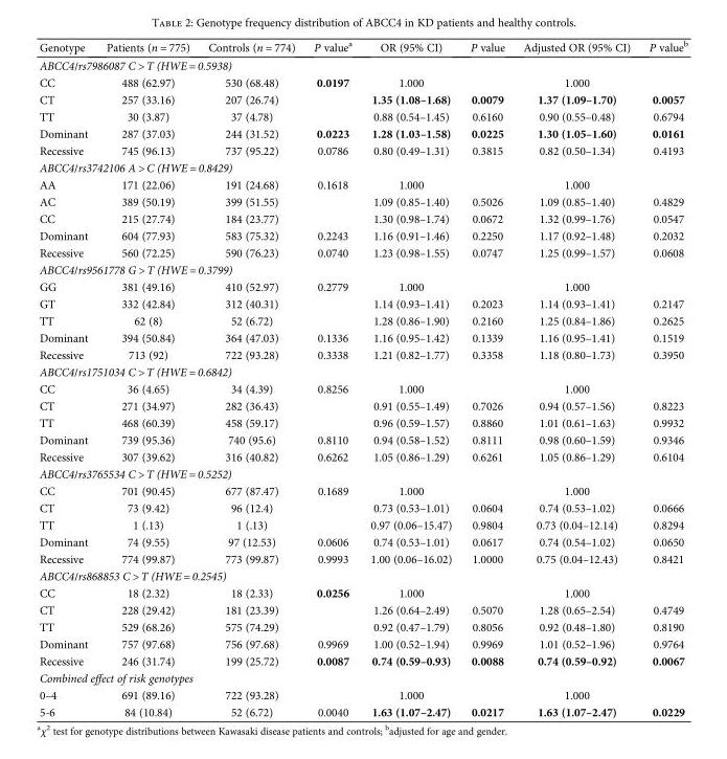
<table><thead><tr><td>Genotype</td><td>Patients (n = 775)</td><td>Controls (n = 774)</td><td>P value<sup>a</sup></td><td>OR (95% CI)</td><td>P value</td><td>Adjusted OR (95% CI)</td><td>P value<sup>b</sup></td></tr></thead><tbody><tr><td colspan="8">ABCC4/rs7986087 C &gt; T (HWE = 0.5938)</td></tr><tr><td>CC</td><td>488 (62.97)</td><td>530 (68.48)</td><td>0.0197</td><td>1.000</td><td></td><td>1.000</td><td></td></tr><tr><td>CT</td><td>257 (33.16)</td><td>207 (26.74)</td><td></td><td>1.35 (1.08–1.68)</td><td>0.0079</td><td>1.37 (1.09–1.70)</td><td>0.0057</td></tr><tr><td>TT</td><td>30 (3.87)</td><td>37 (4.78)</td><td></td><td>0.88 (0.54–1.45)</td><td>0.6160</td><td>0.90 (0.55–0.48)</td><td>0.6794</td></tr><tr><td>Dominant</td><td>287 (37.03)</td><td>244 (31.52)</td><td>0.0223</td><td>1.28 (1.03–1.58)</td><td>0.0225</td><td>1.30 (1.05–1.60)</td><td>0.0161</td></tr><tr><td>Recessive</td><td>745 (96.13)</td><td>737 (95.22)</td><td>0.0786</td><td>0.80 (0.49–1.31)</td><td>0.3815</td><td>0.82 (0.50–1.34)</td><td>0.4193</td></tr><tr><td colspan="8">ABCC4/rs3742106 A &gt; C (HWE = 0.8429)</td></tr><tr><td>AA</td><td>171 (22.06)</td><td>191 (24.68)</td><td>0.1618</td><td>1.000</td><td></td><td>1.000</td><td></td></tr><tr><td>AC</td><td>389 (50.19)</td><td>399 (51.55)</td><td></td><td>1.09 (0.85–1.40)</td><td>0.5026</td><td>1.09 (0.85–1.40)</td><td>0.4829</td></tr><tr><td>CC</td><td>215 (27.74)</td><td>184 (23.77)</td><td></td><td>1.30 (0.98–1.74)</td><td>0.0672</td><td>1.32 (0.99–1.76)</td><td>0.0547</td></tr><tr><td>Dominant</td><td>604 (77.93)</td><td>583 (75.32)</td><td>0.2243</td><td>1.16 (0.91–1.46)</td><td>0.2250</td><td>1.17 (0.92–1.48)</td><td>0.2032</td></tr><tr><td>Recessive</td><td>560 (72.25)</td><td>590 (76.23)</td><td>0.0740</td><td>1.23 (0.98–1.55)</td><td>0.0747</td><td>1.25 (0.99–1.57)</td><td>0.0608</td></tr><tr><td colspan="8">ABCC4/rs9561778 G &gt; T (HWE = 0.3799)</td></tr><tr><td>GG</td><td>381 (49.16)</td><td>410 (52.97)</td><td>0.2779</td><td>1.000</td><td></td><td>1.000</td><td></td></tr><tr><td>GT</td><td>332 (42.84)</td><td>312 (40.31)</td><td></td><td>1.14 (0.93–1.41)</td><td>0.2023</td><td>1.14 (0.93–1.41)</td><td>0.2147</td></tr><tr><td>TT</td><td>62 (8)</td><td>52 (6.72)</td><td></td><td>1.28 (0.86–1.90)</td><td>0.2160</td><td>1.25 (0.84–1.86)</td><td>0.2625</td></tr><tr><td>Dominant</td><td>394 (50.84)</td><td>364 (47.03)</td><td>0.1336</td><td>1.16 (0.95–1.42)</td><td>0.1339</td><td>1.16 (0.95–1.41)</td><td>0.1519</td></tr><tr><td>Recessive</td><td>713 (92)</td><td>722 (93.28)</td><td>0.3338</td><td>1.21 (0.82–1.77)</td><td>0.3358</td><td>1.18 (0.80–1.73)</td><td>0.3950</td></tr><tr><td colspan="8">ABCC4/rs1751034 C &gt; T (HWE = 0.6842)</td></tr><tr><td>CC</td><td>36 (4.65)</td><td>34 (4.39)</td><td>0.8256</td><td>1.000</td><td></td><td>1.000</td><td></td></tr><tr><td>CT</td><td>271 (34.97)</td><td>282 (36.43)</td><td></td><td>0.91 (0.55–1.49)</td><td>0.7026</td><td>0.94 (0.57–1.56)</td><td>0.8223</td></tr><tr><td>TT</td><td>468 (60.39)</td><td>458 (59.17)</td><td></td><td>0.96 (0.59–1.57)</td><td>0.8860</td><td>1.01 (0.61–1.63)</td><td>0.9932</td></tr><tr><td>Dominant</td><td>739 (95.36)</td><td>740 (95.6)</td><td>0.8110</td><td>0.94 (0.58–1.52)</td><td>0.8111</td><td>0.98 (0.60–1.59)</td><td>0.9346</td></tr><tr><td>Recessive</td><td>307 (39.62)</td><td>316 (40.82)</td><td>0.6262</td><td>1.05 (0.86–1.29)</td><td>0.6261</td><td>1.05 (0.86–1.29)</td><td>0.6104</td></tr><tr><td colspan="8">ABCC4/rs3765534 C &gt; T (HWE = 0.5252)</td></tr><tr><td>CC</td><td>701 (90.45)</td><td>677 (87.47)</td><td>0.1689</td><td>1.000</td><td></td><td>1.000</td><td></td></tr><tr><td>CT</td><td>73 (9.42)</td><td>96 (12.4)</td><td></td><td>0.73 (0.53–1.01)</td><td>0.0604</td><td>0.74 (0.53–1.02)</td><td>0.0666</td></tr><tr><td>TT</td><td>1 (.13)</td><td>1 (.13)</td><td></td><td>0.97 (0.06–15.47)</td><td>0.9804</td><td>0.73 (0.04–12.14)</td><td>0.8294</td></tr><tr><td>Dominant</td><td>74 (9.55)</td><td>97 (12.53)</td><td>0.0606</td><td>0.74 (0.53–1.01)</td><td>0.0617</td><td>0.74 (0.54–1.02)</td><td>0.0650</td></tr><tr><td>Recessive</td><td>774 (99.87)</td><td>773 (99.87)</td><td>0.9993</td><td>1.00 (0.06–16.02)</td><td>1.0000</td><td>0.75 (0.04–12.43)</td><td>0.8421</td></tr><tr><td colspan="8">ABCC4/rs868853 C &gt; T (HWE = 0.2545)</td></tr><tr><td>CC</td><td>18 (2.32)</td><td>18 (2.33)</td><td>0.0256</td><td>1.000</td><td></td><td>1.000</td><td></td></tr><tr><td>CT</td><td>228 (29.42)</td><td>181 (23.39)</td><td></td><td>1.26 (0.64–2.49)</td><td>0.5070</td><td>1.28 (0.65–2.54)</td><td>0.4749</td></tr><tr><td>TT</td><td>529 (68.26)</td><td>575 (74.29)</td><td></td><td>0.92 (0.47–1.79)</td><td>0.8056</td><td>0.92 (0.48–1.80)</td><td>0.8190</td></tr><tr><td>Dominant</td><td>757 (97.68)</td><td>756 (97.68)</td><td>0.9969</td><td>1.00 (0.52–1.94)</td><td>0.9969</td><td>1.01 (0.52–1.96)</td><td>0.9764</td></tr><tr><td>Recessive</td><td>246 (31.74)</td><td>199 (25.72)</td><td>0.0087</td><td>0.74 (0.59–0.93)</td><td>0.0088</td><td>0.74 (0.59–0.92)</td><td>0.0067</td></tr><tr><td colspan="8">Combined effect of risk genotypes</td></tr><tr><td>0–4</td><td>691 (89.16)</td><td>722 (93.28)</td><td></td><td>1.000</td><td></td><td>1.000</td><td></td></tr><tr><td>5-6</td><td>84 (10.84)</td><td>52 (6.72)</td><td>0.0040</td><td>1.63 (1.07–2.47)</td><td>0.0217</td><td>1.63 (1.07–2.47)</td><td>0.0229</td></tr></tbody></table>